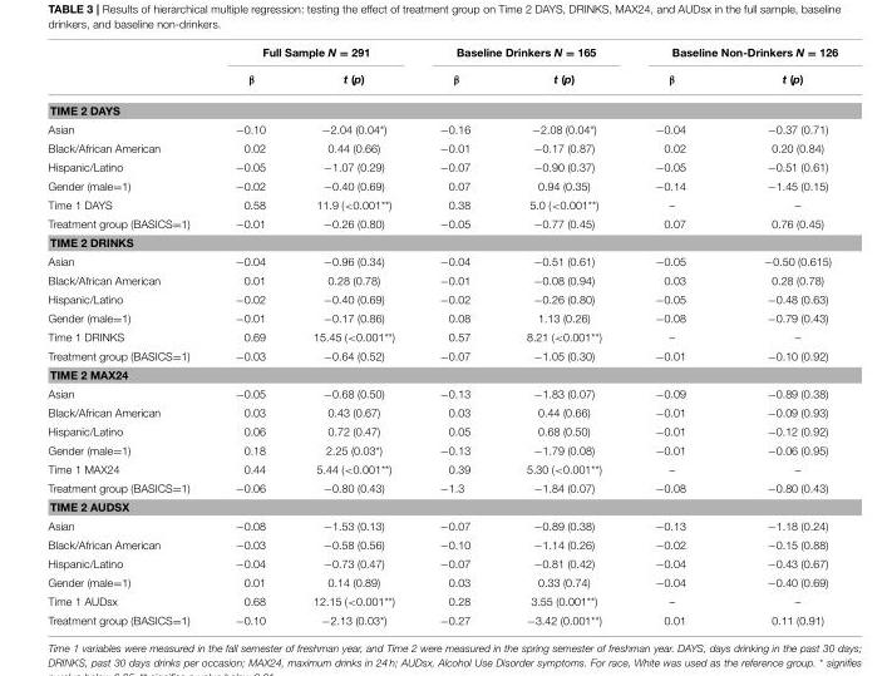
<table><thead><tr><td rowspan="2"></td><td colspan="2">Full Sample N = 291</td><td colspan="2">Baseline Drinkers N = 165</td><td colspan="2">Baseline Non-Drinkers N = 126</td></tr><tr><td>β</td><td>t (p)</td><td>β</td><td>t (p)</td><td>β</td><td>t (p)</td></tr></thead><tbody><tr><td colspan="7">TIME 2 DAYS</td></tr><tr><td>Asian</td><td>−0.10</td><td>−2.04 (0.04*)</td><td>−0.16</td><td>−2.08 (0.04*)</td><td>−0.04</td><td>−0.37 (0.71)</td></tr><tr><td>Black/African American</td><td>0.02</td><td>0.44 (0.66)</td><td>−0.01</td><td>−0.17 (0.87)</td><td>0.02</td><td>0.20 (0.84)</td></tr><tr><td>Hispanic/Latino</td><td>−0.05</td><td>−1.07 (0.29)</td><td>−0.07</td><td>−0.90 (0.37)</td><td>−0.05</td><td>−0.51 (0.61)</td></tr><tr><td>Gender (male=1)</td><td>−0.02</td><td>−0.40 (0.69)</td><td>0.07</td><td>0.94 (0.35)</td><td>−0.14</td><td>−1.45 (0.15)</td></tr><tr><td>Time 1 DAYS</td><td>0.58</td><td>11.9 (&lt;0.001**)</td><td>0.38</td><td>5.0 (&lt;0.001**)</td><td>–</td><td>–</td></tr><tr><td>Treatment group (BASICS=1)</td><td>−0.01</td><td>−0.26 (0.80)</td><td>−0.05</td><td>−0.77 (0.45)</td><td>0.07</td><td>0.76 (0.45)</td></tr><tr><td colspan="7">TIME 2 DRINKS</td></tr><tr><td>Asian</td><td>−0.04</td><td>−0.96 (0.34)</td><td>−0.04</td><td>−0.51 (0.61)</td><td>−0.05</td><td>−0.50 (0.615)</td></tr><tr><td>Black/African American</td><td>0.01</td><td>0.28 (0.78)</td><td>−0.01</td><td>−0.08 (0.94)</td><td>0.03</td><td>0.28 (0.78)</td></tr><tr><td>Hispanic/Latino</td><td>−0.02</td><td>−0.40 (0.69)</td><td>−0.02</td><td>−0.26 (0.80)</td><td>−0.05</td><td>−0.48 (0.63)</td></tr><tr><td>Gender (male=1)</td><td>−0.01</td><td>−0.17 (0.86)</td><td>0.08</td><td>1.13 (0.26)</td><td>−0.08</td><td>−0.79 (0.43)</td></tr><tr><td>Time 1 DRINKS</td><td>0.69</td><td>15.45 (&lt;0.001**)</td><td>0.57</td><td>8.21 (&lt;0.001**)</td><td>–</td><td>–</td></tr><tr><td>Treatment group (BASICS=1)</td><td>−0.03</td><td>−0.64 (0.52)</td><td>−0.07</td><td>−1.05 (0.30)</td><td>−0.01</td><td>−0.10 (0.92)</td></tr><tr><td colspan="7">TIME 2 MAX24</td></tr><tr><td>Asian</td><td>−0.05</td><td>−0.68 (0.50)</td><td>−0.13</td><td>−1.83 (0.07)</td><td>−0.09</td><td>−0.89 (0.38)</td></tr><tr><td>Black/African American</td><td>0.03</td><td>0.43 (0.67)</td><td>0.03</td><td>0.44 (0.66)</td><td>−0.01</td><td>−0.09 (0.93)</td></tr><tr><td>Hispanic/Latino</td><td>0.06</td><td>0.72 (0.47)</td><td>0.05</td><td>0.68 (0.50)</td><td>−0.01</td><td>−0.12 (0.92)</td></tr><tr><td>Gender (male=1)</td><td>0.18</td><td>2.25 (0.03*)</td><td>−0.13</td><td>−1.79 (0.08)</td><td>−0.01</td><td>−0.06 (0.95)</td></tr><tr><td>Time 1 MAX24</td><td>0.44</td><td>5.44 (&lt;0.001**)</td><td>0.39</td><td>5.30 (&lt;0.001**)</td><td>–</td><td>–</td></tr><tr><td>Treatment group (BASICS=1)</td><td>−0.06</td><td>−0.80 (0.43)</td><td>−1.3</td><td>−1.84 (0.07)</td><td>−0.08</td><td>−0.80 (0.43)</td></tr><tr><td colspan="7">TIME 2 AUDSX</td></tr><tr><td>Asian</td><td>−0.08</td><td>−1.53 (0.13)</td><td>−0.07</td><td>−0.89 (0.38)</td><td>−0.13</td><td>−1.18 (0.24)</td></tr><tr><td>Black/African American</td><td>−0.03</td><td>−0.58 (0.56)</td><td>−0.10</td><td>−1.14 (0.26)</td><td>−0.02</td><td>−0.15 (0.88)</td></tr><tr><td>Hispanic/Latino</td><td>−0.04</td><td>−0.73 (0.47)</td><td>−0.07</td><td>−0.81 (0.42)</td><td>−0.04</td><td>−0.43 (0.67)</td></tr><tr><td>Gender (male=1)</td><td>0.01</td><td>0.14 (0.89)</td><td>0.03</td><td>0.33 (0.74)</td><td>−0.04</td><td>−0.40 (0.69)</td></tr><tr><td>Time 1 AUDsx</td><td>0.68</td><td>12.15 (&lt;0.001**)</td><td>0.28</td><td>3.55 (0.001**)</td><td>–</td><td>–</td></tr><tr><td>Treatment group (BASICS=1)</td><td>−0.10</td><td>−2.13 (0.03*)</td><td>−0.27</td><td>−3.42 (0.001**)</td><td>0.01</td><td>0.11 (0.91)</td></tr></tbody></table>